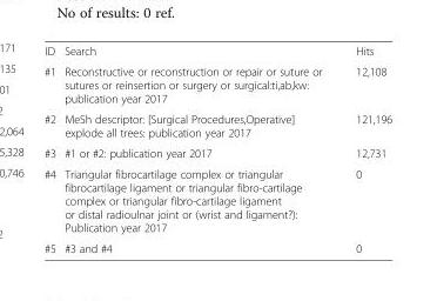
<table><tbody><tr><td>ID</td><td>Search</td><td>Hits</td></tr><tr><td>#1</td><td>Reconstructive or reconstruction or repair or suture or sutures or reinsertion or surgery or surgical:ti,ab,kw: publication year 2017</td><td>12,108</td></tr><tr><td>#2</td><td>MeSh descriptor: [Surgical Procedures,Operative] explode all trees: publication year 2017</td><td>121,196</td></tr><tr><td>#3</td><td>#1 or #2: publication year 2017</td><td>12,731</td></tr><tr><td>#4</td><td>Triangular fibrocartilage complex or triangular fibrocartilage ligament or triangular fibro-cartilage complex or triangular fibro-cartilage ligament or distal radioulnar joint or (wrist and ligament?): Publication year 2017</td><td>0</td></tr><tr><td>#5</td><td>#3 and #4</td><td>0</td></tr></tbody></table>